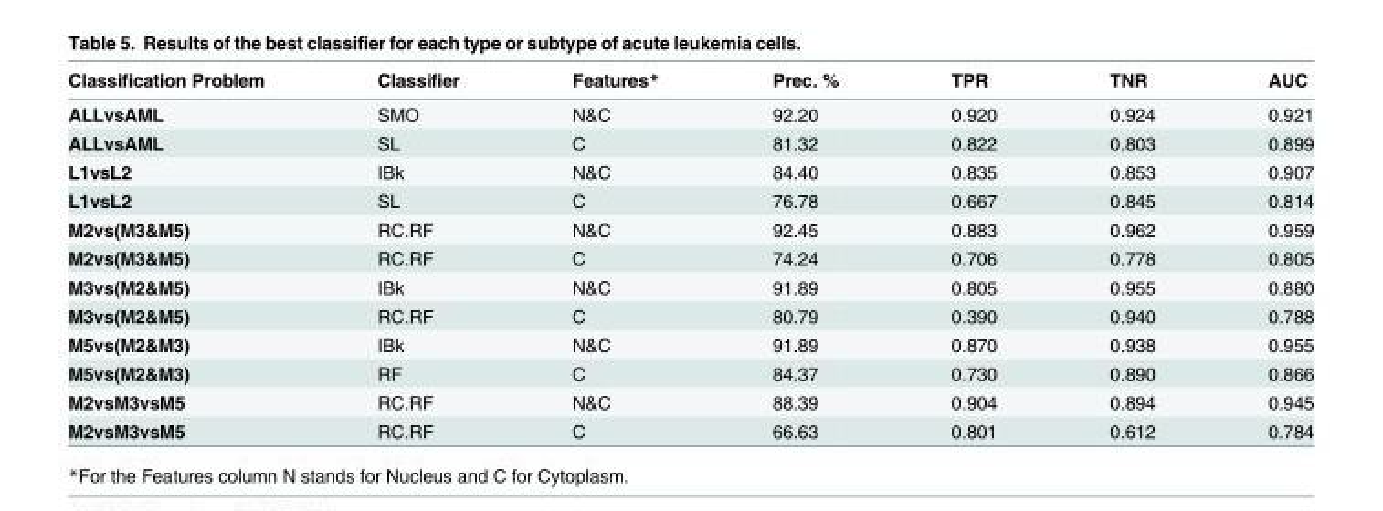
<table><thead><tr><td>Classification Problem</td><td>Classifier</td><td>Features*</td><td>Prec. %</td><td>TPR</td><td>TNR</td><td>AUC</td></tr></thead><tbody><tr><td>ALLvsAML</td><td>SMO</td><td>N&amp;C</td><td>92.20</td><td>0.920</td><td>0.924</td><td>0.921</td></tr><tr><td>ALLvsAML</td><td>SL</td><td>C</td><td>81.32</td><td>0.822</td><td>0.803</td><td>0.899</td></tr><tr><td>L1vsL2</td><td>IBk</td><td>N&amp;C</td><td>84.40</td><td>0.835</td><td>0.853</td><td>0.907</td></tr><tr><td>L1vsL2</td><td>SL</td><td>C</td><td>76.78</td><td>0.667</td><td>0.845</td><td>0.814</td></tr><tr><td>M2vs(M3&amp;M5)</td><td>RC.RF</td><td>N&amp;C</td><td>92.45</td><td>0.883</td><td>0.962</td><td>0.959</td></tr><tr><td>M2vs(M3&amp;M5)</td><td>RC.RF</td><td>C</td><td>74.24</td><td>0.706</td><td>0.778</td><td>0.805</td></tr><tr><td>M3vs(M2&amp;M5)</td><td>IBk</td><td>N&amp;C</td><td>91.89</td><td>0.805</td><td>0.955</td><td>0.880</td></tr><tr><td>M3vs(M2&amp;M5)</td><td>RC.RF</td><td>C</td><td>80.79</td><td>0.390</td><td>0.940</td><td>0.788</td></tr><tr><td>M5vs(M2&amp;M3)</td><td>IBk</td><td>N&amp;C</td><td>91.89</td><td>0.870</td><td>0.938</td><td>0.955</td></tr><tr><td>M5vs(M2&amp;M3)</td><td>RF</td><td>C</td><td>84.37</td><td>0.730</td><td>0.890</td><td>0.866</td></tr><tr><td>M2vsM3vsM5</td><td>RC.RF</td><td>N&amp;C</td><td>88.39</td><td>0.904</td><td>0.894</td><td>0.945</td></tr><tr><td>M2vsM3vsM5</td><td>RC.RF</td><td>C</td><td>66.63</td><td>0.801</td><td>0.612</td><td>0.784</td></tr></tbody></table>